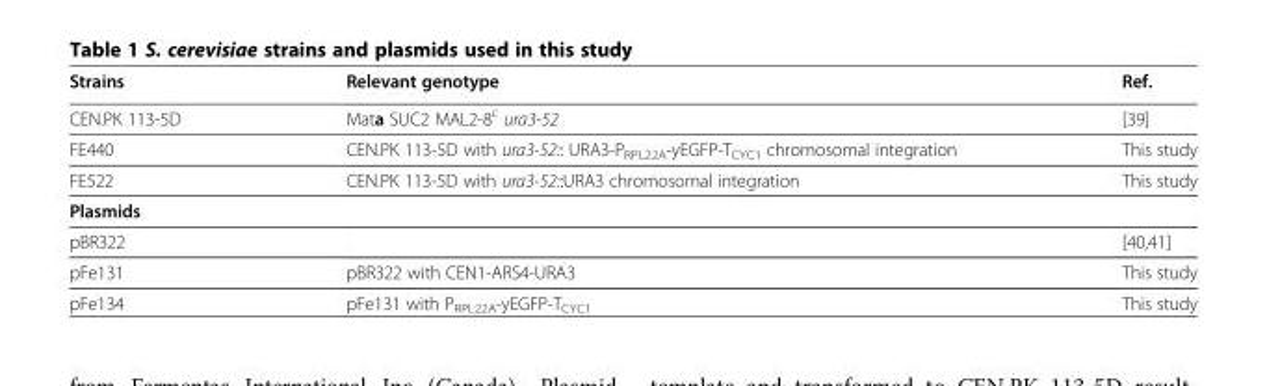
<table><thead><tr><td>Strains</td><td>Relevant genotype</td><td>Ref.</td></tr></thead><tbody><tr><td>CEN.PK 113-5D</td><td>Mata SUC2 MAL2-8<sup>c</sup> ura3-52</td><td>[39]</td></tr><tr><td>FE440</td><td>CEN.PK 113-5D with ura3-52:: URA3-P<sub>RPL22A</sub>-yEGFP-T<sub>CYC1</sub> chromosomal integration</td><td>This study</td></tr><tr><td>FE522</td><td>CEN.PK 113-5D with ura3-52::URA3 chromosomal integration</td><td>This study</td></tr><tr><td colspan="3">Plasmids</td></tr><tr><td>pBR322</td><td></td><td>[40,41]</td></tr><tr><td>pFe131</td><td>pBR322 with CEN1-ARS4-URA3</td><td>This study</td></tr><tr><td>pFe134</td><td>pFe131 with P<sub>RPL22A</sub>-yEGFP-T<sub>CYC1</sub></td><td>This study</td></tr></tbody></table>